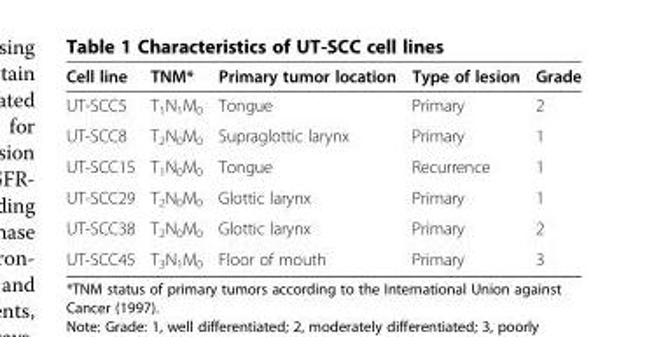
<table><thead><tr><td>Cell line</td><td>TNM*</td><td>Primary tumor location</td><td>Type of lesion</td><td>Grade</td></tr></thead><tbody><tr><td>UT-SCC5</td><td>T<sub>1</sub>N<sub>1</sub>M<sub>0</sub></td><td>Tongue</td><td>Primary</td><td>2</td></tr><tr><td>UT-SCC8</td><td>T<sub>2</sub>N<sub>0</sub>M<sub>0</sub></td><td>Supraglottic larynx</td><td>Primary</td><td>1</td></tr><tr><td>UT-SCC15</td><td>T<sub>1</sub>N<sub>0</sub>M<sub>0</sub></td><td>Tongue</td><td>Recurrence</td><td>1</td></tr><tr><td>UT-SCC29</td><td>T<sub>2</sub>N<sub>0</sub>M<sub>0</sub></td><td>Glottic larynx</td><td>Primary</td><td>1</td></tr><tr><td>UT-SCC38</td><td>T<sub>2</sub>N<sub>0</sub>M<sub>0</sub></td><td>Glottic larynx</td><td>Primary</td><td>2</td></tr><tr><td>UT-SCC45</td><td>T<sub>3</sub>N<sub>1</sub>M<sub>0</sub></td><td>Floor of mouth</td><td>Primary</td><td>3</td></tr></tbody></table>